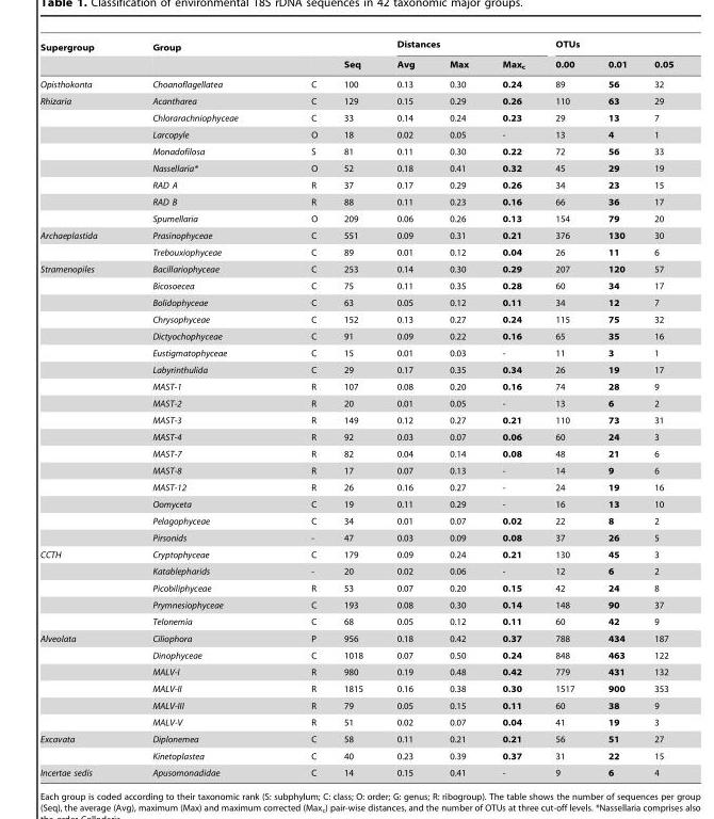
<table><thead><tr><td rowspan="2">Supergroup</td><td rowspan="2">Group</td><td rowspan="2"></td><td rowspan="2">Seq</td><td colspan="3">Distances</td><td colspan="3">OTUs</td></tr><tr><td>Avg</td><td>Max</td><td>Max<sub>c</sub></td><td>0.00</td><td>0.01</td><td>0.05</td></tr></thead><tbody><tr><td>Opisthokonta</td><td>Choanoflagellatea</td><td>C</td><td>100</td><td>0.13</td><td>0.30</td><td>0.24</td><td>89</td><td>56</td><td>32</td></tr><tr><td rowspan="8">Rhizaria</td><td>Acantharea</td><td>C</td><td>129</td><td>0.15</td><td>0.29</td><td>0.26</td><td>110</td><td>63</td><td>29</td></tr><tr><td>Chlorarachniophyceae</td><td>C</td><td>33</td><td>0.14</td><td>0.24</td><td>0.23</td><td>29</td><td>13</td><td>7</td></tr><tr><td>Larcopyle</td><td>O</td><td>18</td><td>0.02</td><td>0.05</td><td>-</td><td>13</td><td>4</td><td>1</td></tr><tr><td>Monadofilosa</td><td>S</td><td>81</td><td>0.11</td><td>0.30</td><td>0.22</td><td>72</td><td>56</td><td>33</td></tr><tr><td>Nassellaria*</td><td>O</td><td>52</td><td>0.18</td><td>0.41</td><td>0.32</td><td>45</td><td>29</td><td>19</td></tr><tr><td>RAD A</td><td>R</td><td>37</td><td>0.17</td><td>0.29</td><td>0.26</td><td>34</td><td>23</td><td>15</td></tr><tr><td>RAD B</td><td>R</td><td>88</td><td>0.11</td><td>0.23</td><td>0.16</td><td>66</td><td>36</td><td>17</td></tr><tr><td>Spumellaria</td><td>O</td><td>209</td><td>0.06</td><td>0.26</td><td>0.13</td><td>154</td><td>79</td><td>20</td></tr><tr><td rowspan="2">Archaeplastida</td><td>Prasinophyceae</td><td>C</td><td>551</td><td>0.09</td><td>0.31</td><td>0.21</td><td>376</td><td>130</td><td>30</td></tr><tr><td>Trebouxiophyceae</td><td>C</td><td>89</td><td>0.01</td><td>0.12</td><td>0.04</td><td>26</td><td>11</td><td>6</td></tr><tr><td rowspan="17">Stramenopiles</td><td>Bacillariophyceae</td><td>C</td><td>253</td><td>0.14</td><td>0.30</td><td>0.29</td><td>207</td><td>120</td><td>57</td></tr><tr><td>Bicosoecea</td><td>C</td><td>75</td><td>0.11</td><td>0.35</td><td>0.28</td><td>60</td><td>34</td><td>17</td></tr><tr><td>Bolidophyceae</td><td>C</td><td>63</td><td>0.05</td><td>0.12</td><td>0.11</td><td>34</td><td>12</td><td>7</td></tr><tr><td>Chrysophyceae</td><td>C</td><td>152</td><td>0.13</td><td>0.27</td><td>0.24</td><td>115</td><td>75</td><td>32</td></tr><tr><td>Dictyochophyceae</td><td>C</td><td>91</td><td>0.09</td><td>0.22</td><td>0.16</td><td>65</td><td>35</td><td>16</td></tr><tr><td>Eustigmatophyceae</td><td>C</td><td>15</td><td>0.01</td><td>0.03</td><td>-</td><td>11</td><td>3</td><td>1</td></tr><tr><td>Labyrinthulida</td><td>C</td><td>29</td><td>0.17</td><td>0.35</td><td>0.34</td><td>26</td><td>19</td><td>17</td></tr><tr><td>MAST-1</td><td>R</td><td>107</td><td>0.08</td><td>0.20</td><td>0.16</td><td>74</td><td>28</td><td>9</td></tr><tr><td>MAST-2</td><td>R</td><td>20</td><td>0.01</td><td>0.05</td><td>-</td><td>13</td><td>6</td><td>2</td></tr><tr><td>MAST-3</td><td>R</td><td>149</td><td>0.12</td><td>0.27</td><td>0.21</td><td>110</td><td>73</td><td>31</td></tr><tr><td>MAST-4</td><td>R</td><td>92</td><td>0.03</td><td>0.07</td><td>0.06</td><td>60</td><td>24</td><td>3</td></tr><tr><td>MAST-7</td><td>R</td><td>82</td><td>0.04</td><td>0.14</td><td>0.08</td><td>48</td><td>21</td><td>6</td></tr><tr><td>MAST-8</td><td>R</td><td>17</td><td>0.07</td><td>0.13</td><td>-</td><td>14</td><td>9</td><td>6</td></tr><tr><td>MAST-12</td><td>R</td><td>26</td><td>0.16</td><td>0.27</td><td>-</td><td>24</td><td>19</td><td>16</td></tr><tr><td>Oomyceta</td><td>C</td><td>19</td><td>0.11</td><td>0.29</td><td>-</td><td>16</td><td>13</td><td>10</td></tr><tr><td>Pelagophyceae</td><td>C</td><td>34</td><td>0.01</td><td>0.07</td><td>0.02</td><td>22</td><td>8</td><td>2</td></tr><tr><td>Pirsonids</td><td>-</td><td>47</td><td>0.03</td><td>0.09</td><td>0.08</td><td>37</td><td>26</td><td>5</td></tr><tr><td rowspan="5">CCTH</td><td>Cryptophyceae</td><td>C</td><td>179</td><td>0.09</td><td>0.24</td><td>0.21</td><td>130</td><td>45</td><td>3</td></tr><tr><td>Katablepharids</td><td>-</td><td>20</td><td>0.02</td><td>0.06</td><td>-</td><td>12</td><td>6</td><td>2</td></tr><tr><td>Picobiliphyceae</td><td>R</td><td>53</td><td>0.07</td><td>0.20</td><td>0.15</td><td>42</td><td>24</td><td>8</td></tr><tr><td>Prymnesiophyceae</td><td>C</td><td>193</td><td>0.08</td><td>0.30</td><td>0.14</td><td>148</td><td>90</td><td>37</td></tr><tr><td>Telonemia</td><td>C</td><td>68</td><td>0.05</td><td>0.12</td><td>0.11</td><td>60</td><td>42</td><td>9</td></tr><tr><td rowspan="6">Alveolata</td><td>Ciliophora</td><td>P</td><td>956</td><td>0.18</td><td>0.42</td><td>0.37</td><td>788</td><td>434</td><td>187</td></tr><tr><td>Dinophyceae</td><td>C</td><td>1018</td><td>0.07</td><td>0.50</td><td>0.24</td><td>848</td><td>463</td><td>122</td></tr><tr><td>MALV-I</td><td>R</td><td>980</td><td>0.19</td><td>0.48</td><td>0.42</td><td>779</td><td>431</td><td>132</td></tr><tr><td>MALV-II</td><td>R</td><td>1815</td><td>0.16</td><td>0.38</td><td>0.30</td><td>1517</td><td>900</td><td>353</td></tr><tr><td>MALV-III</td><td>R</td><td>79</td><td>0.05</td><td>0.15</td><td>0.11</td><td>60</td><td>38</td><td>9</td></tr><tr><td>MALV-V</td><td>R</td><td>51</td><td>0.02</td><td>0.07</td><td>0.04</td><td>41</td><td>19</td><td>3</td></tr><tr><td rowspan="2">Excavata</td><td>Diplonemea</td><td>C</td><td>58</td><td>0.11</td><td>0.21</td><td>0.21</td><td>56</td><td>51</td><td>27</td></tr><tr><td>Kinetoplastea</td><td>C</td><td>40</td><td>0.23</td><td>0.39</td><td>0.37</td><td>31</td><td>22</td><td>15</td></tr><tr><td>Incertae sedis</td><td>Apusomonadidae</td><td>C</td><td>14</td><td>0.15</td><td>0.41</td><td>-</td><td>9</td><td>6</td><td>4</td></tr></tbody></table>